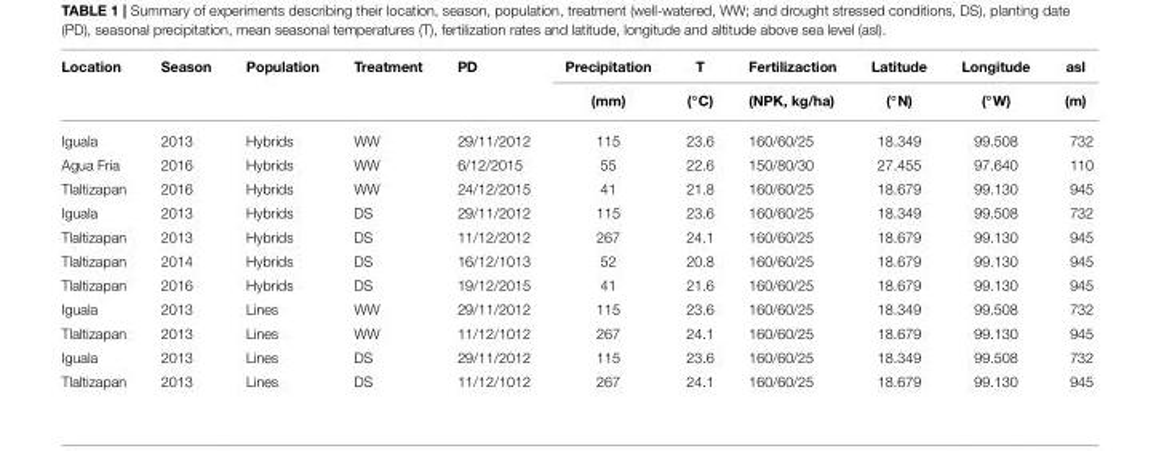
<table><thead><tr><td rowspan="2">Location</td><td rowspan="2">Season</td><td rowspan="2">Population</td><td rowspan="2">Treatment</td><td rowspan="2">PD</td><td rowspan="2">Precipitation (mm)</td><td rowspan="2">T (◦C)</td><td rowspan="2">Fertilizaction (NPK, kg/ha)</td><td rowspan="2">Latitude (◦N)</td><td rowspan="2">Longitude (◦W)</td><td rowspan="2">asl (m)</td></tr><tr></tr></thead><tbody><tr><td>Iguala</td><td>2013</td><td>Hybrids</td><td>WW</td><td>29/11/2012</td><td>115</td><td>23.6</td><td>160/60/25</td><td>18.349</td><td>99.508</td><td>732</td></tr><tr><td>Agua Fria</td><td>2016</td><td>Hybrids</td><td>WW</td><td>6/12/2015</td><td>55</td><td>22.6</td><td>150/80/30</td><td>27.455</td><td>97.640</td><td>110</td></tr><tr><td>Tlaltizapan</td><td>2016</td><td>Hybrids</td><td>WW</td><td>24/12/2015</td><td>41</td><td>21.8</td><td>160/60/25</td><td>18.679</td><td>99.130</td><td>945</td></tr><tr><td>Iguala</td><td>2013</td><td>Hybrids</td><td>DS</td><td>29/11/2012</td><td>115</td><td>23.6</td><td>160/60/25</td><td>18.349</td><td>99.508</td><td>732</td></tr><tr><td>Tlaltizapan</td><td>2013</td><td>Hybrids</td><td>DS</td><td>11/12/2012</td><td>267</td><td>24.1</td><td>160/60/25</td><td>18.679</td><td>99.130</td><td>945</td></tr><tr><td>Tlaltizapan</td><td>2014</td><td>Hybrids</td><td>DS</td><td>16/12/1013</td><td>52</td><td>20.8</td><td>160/60/25</td><td>18.679</td><td>99.130</td><td>945</td></tr><tr><td>Tlaltizapan</td><td>2016</td><td>Hybrids</td><td>DS</td><td>19/12/2015</td><td>41</td><td>21.6</td><td>160/60/25</td><td>18.679</td><td>99.130</td><td>945</td></tr><tr><td>Iguala</td><td>2013</td><td>Lines</td><td>WW</td><td>29/11/2012</td><td>115</td><td>23.6</td><td>160/60/25</td><td>18.349</td><td>99.508</td><td>732</td></tr><tr><td>Tlaltizapan</td><td>2013</td><td>Lines</td><td>WW</td><td>11/12/1012</td><td>267</td><td>24.1</td><td>160/60/25</td><td>18.679</td><td>99.130</td><td>945</td></tr><tr><td>Iguala</td><td>2013</td><td>Lines</td><td>DS</td><td>29/11/2012</td><td>115</td><td>23.6</td><td>160/60/25</td><td>18.349</td><td>99.508</td><td>732</td></tr><tr><td>Tlaltizapan</td><td>2013</td><td>Lines</td><td>DS</td><td>11/12/1012</td><td>267</td><td>24.1</td><td>160/60/25</td><td>18.679</td><td>99.130</td><td>945</td></tr></tbody></table>